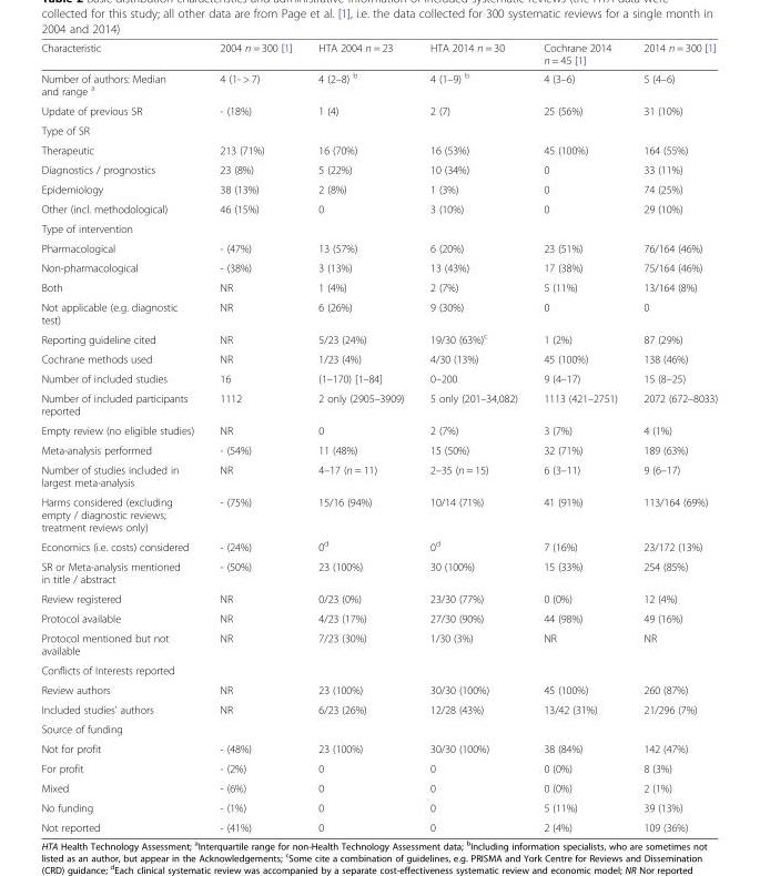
<table><thead><tr><td>Characteristic</td><td>2004 n = 300 [1]</td><td>HTA 2004 n = 23</td><td>HTA 2014 n = 30</td><td>Cochrane 2014 n = 45 [1]</td><td>2014 n = 300 [1]</td></tr></thead><tbody><tr><td>Number of authors: Median and range <sup>a</sup></td><td>4 (1- &gt; 7)</td><td>4 (2–8) <sup>b</sup></td><td>4 (1–9) <sup>b</sup></td><td>4 (3–6)</td><td>5 (4–6)</td></tr><tr><td>Update of previous SR</td><td>- (18%)</td><td>1 (4)</td><td>2 (7)</td><td>25 (56%)</td><td>31 (10%)</td></tr><tr><td colspan="6">Type of SR</td></tr><tr><td>Therapeutic</td><td>213 (71%)</td><td>16 (70%)</td><td>16 (53%)</td><td>45 (100%)</td><td>164 (55%)</td></tr><tr><td>Diagnostics / prognostics</td><td>23 (8%)</td><td>5 (22%)</td><td>10 (34%)</td><td>0</td><td>33 (11%)</td></tr><tr><td>Epidemiology</td><td>38 (13%)</td><td>2 (8%)</td><td>1 (3%)</td><td>0</td><td>74 (25%)</td></tr><tr><td>Other (incl. methodological)</td><td>46 (15%)</td><td>0</td><td>3 (10%)</td><td>0</td><td>29 (10%)</td></tr><tr><td colspan="6">Type of intervention</td></tr><tr><td>Pharmacological</td><td>- (47%)</td><td>13 (57%)</td><td>6 (20%)</td><td>23 (51%)</td><td>76/164 (46%)</td></tr><tr><td>Non-pharmacological</td><td>- (38%)</td><td>3 (13%)</td><td>13 (43%)</td><td>17 (38%)</td><td>75/164 (46%)</td></tr><tr><td>Both</td><td>NR</td><td>1 (4%)</td><td>2 (7%)</td><td>5 (11%)</td><td>13/164 (8%)</td></tr><tr><td>Not applicable (e.g. diagnostic test)</td><td>NR</td><td>6 (26%)</td><td>9 (30%)</td><td>0</td><td>0</td></tr><tr><td>Reporting guideline cited</td><td>NR</td><td>5/23 (24%)</td><td>19/30 (63%)<sup>c</sup></td><td>1 (2%)</td><td>87 (29%)</td></tr><tr><td>Cochrane methods used</td><td>NR</td><td>1/23 (4%)</td><td>4/30 (13%)</td><td>45 (100%)</td><td>138 (46%)</td></tr><tr><td>Number of included studies</td><td>16</td><td>(1–170) [1–84]</td><td>0–200</td><td>9 (4–17)</td><td>15 (8–25)</td></tr><tr><td>Number of included participants reported</td><td>1112</td><td>2 only (2905–3909)</td><td>5 only (201–34,082)</td><td>1113 (421–2751)</td><td>2072 (672–8033)</td></tr><tr><td>Empty review (no eligible studies)</td><td>NR</td><td>0</td><td>2 (7%)</td><td>3 (7%)</td><td>4 (1%)</td></tr><tr><td>Meta-analysis performed</td><td>- (54%)</td><td>11 (48%)</td><td>15 (50%)</td><td>32 (71%)</td><td>189 (63%)</td></tr><tr><td>Number of studies included in largest meta-analysis</td><td>NR</td><td>4–17 (n = 11)</td><td>2–35 (n = 15)</td><td>6 (3–11)</td><td>9 (6–17)</td></tr><tr><td>Harms considered (excluding empty / diagnostic reviews; treatment reviews only)</td><td>- (75%)</td><td>15/16 (94%)</td><td>10/14 (71%)</td><td>41 (91%)</td><td>113/164 (69%)</td></tr><tr><td>Economics (i.e. costs) considered</td><td>- (24%)</td><td>0<sup>d</sup></td><td>0<sup>d</sup></td><td>7 (16%)</td><td>23/172 (13%)</td></tr><tr><td>SR or Meta-analysis mentioned in title / abstract</td><td>- (50%)</td><td>23 (100%)</td><td>30 (100%)</td><td>15 (33%)</td><td>254 (85%)</td></tr><tr><td>Review registered</td><td>NR</td><td>0/23 (0%)</td><td>23/30 (77%)</td><td>0 (0%)</td><td>12 (4%)</td></tr><tr><td>Protocol available</td><td>NR</td><td>4/23 (17%)</td><td>27/30 (90%)</td><td>44 (98%)</td><td>49 (16%)</td></tr><tr><td>Protocol mentioned but not available</td><td>NR</td><td>7/23 (30%)</td><td>1/30 (3%)</td><td>NR</td><td>NR</td></tr><tr><td colspan="6">Conflicts of Interests reported</td></tr><tr><td>Review authors</td><td>NR</td><td>23 (100%)</td><td>30/30 (100%)</td><td>45 (100%)</td><td>260 (87%)</td></tr><tr><td>Included studies’ authors</td><td>NR</td><td>6/23 (26%)</td><td>12/28 (43%)</td><td>13/42 (31%)</td><td>21/296 (7%)</td></tr><tr><td colspan="6">Source of funding</td></tr><tr><td>Not for profit</td><td>- (48%)</td><td>23 (100%)</td><td>30/30 (100%)</td><td>38 (84%)</td><td>142 (47%)</td></tr><tr><td>For profit</td><td>- (2%)</td><td>0</td><td>0</td><td>0 (0%)</td><td>8 (3%)</td></tr><tr><td>Mixed</td><td>- (6%)</td><td>0</td><td>0</td><td>0 (0%)</td><td>2 (1%)</td></tr><tr><td>No funding</td><td>- (1%)</td><td>0</td><td>0</td><td>5 (11%)</td><td>39 (13%)</td></tr><tr><td>Not reported</td><td>- (41%)</td><td>0</td><td>0</td><td>2 (4%)</td><td>109 (36%)</td></tr></tbody></table>